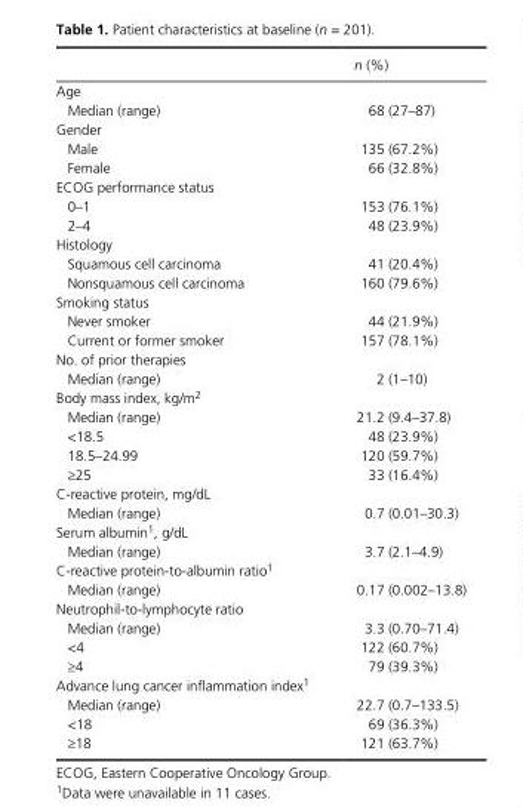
<table><thead><tr><td></td><td>n (%)</td></tr></thead><tbody><tr><td colspan="2">Age</td></tr><tr><td>Median (range)</td><td>68 (27–87)</td></tr><tr><td colspan="2">Gender</td></tr><tr><td>Male</td><td>135 (67.2%)</td></tr><tr><td>Female</td><td>66 (32.8%)</td></tr><tr><td colspan="2">ECOG performance status</td></tr><tr><td>0–1</td><td>153 (76.1%)</td></tr><tr><td>2–4</td><td>48 (23.9%)</td></tr><tr><td colspan="2">Histology</td></tr><tr><td>Squamous cell carcinoma</td><td>41 (20.4%)</td></tr><tr><td>Nonsquamous cell carcinoma</td><td>160 (79.6%)</td></tr><tr><td colspan="2">Smoking status</td></tr><tr><td>Never smoker</td><td>44 (21.9%)</td></tr><tr><td>Current or former smoker</td><td>157 (78.1%)</td></tr><tr><td colspan="2">No. of prior therapies</td></tr><tr><td>Median (range)</td><td>2 (1–10)</td></tr><tr><td colspan="2">Body mass index, kg/m<sup>2</sup></td></tr><tr><td>Median (range)</td><td>21.2 (9.4–37.8)</td></tr><tr><td>&lt;18.5</td><td>48 (23.9%)</td></tr><tr><td>18.5–24.99</td><td>120 (59.7%)</td></tr><tr><td>≥25</td><td>33 (16.4%)</td></tr><tr><td colspan="2">C- reactive protein, mg/dL</td></tr><tr><td>Median (range)</td><td>0.7 (0.01–30.3)</td></tr><tr><td colspan="2">Serum albumin1, g/dL</td></tr><tr><td>Median (range)</td><td>3.7 (2.1–4.9)</td></tr><tr><td colspan="2">C- reactive protein- to- albumin ratio1</td></tr><tr><td>Median (range)</td><td>0.17 (0.002–13.8)</td></tr><tr><td colspan="2">Neutrophil- to- lymphocyte ratio</td></tr><tr><td>Median (range)</td><td>3.3 (0.70–71.4)</td></tr><tr><td>&lt;4</td><td>122 (60.7%)</td></tr><tr><td>≥4</td><td>79 (39.3%)</td></tr><tr><td colspan="2">Advance lung cancer inflammation index1</td></tr><tr><td>Median (range)</td><td>22.7 (0.7–133.5)</td></tr><tr><td>&lt;18</td><td>69 (36.3%)</td></tr><tr><td>≥18</td><td>121 (63.7%)</td></tr></tbody></table>